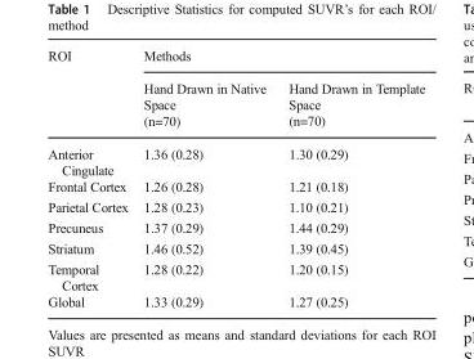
<table><thead><tr><td rowspan="2">ROI</td><td colspan="2">Methods</td></tr><tr><td>Hand Drawn in Native Space (n=70)</td><td>Hand Drawn in Template Space (n=70)</td></tr></thead><tbody><tr><td>Anterior Cingulate</td><td>1.36 (0.28)</td><td>1.30 (0.29)</td></tr><tr><td>Frontal Cortex</td><td>1.26 (0.28)</td><td>1.21 (0.18)</td></tr><tr><td>Parietal Cortex</td><td>1.28 (0.23)</td><td>1.10 (0.21)</td></tr><tr><td>Precuneus</td><td>1.37 (0.29)</td><td>1.44 (0.29)</td></tr><tr><td>Striatum</td><td>1.46 (0.52)</td><td>1.39 (0.45)</td></tr><tr><td>Temporal Cortex</td><td>1.28 (0.22)</td><td>1.20 (0.15)</td></tr><tr><td>Global</td><td>1.33 (0.29)</td><td>1.27 (0.25)</td></tr></tbody></table>